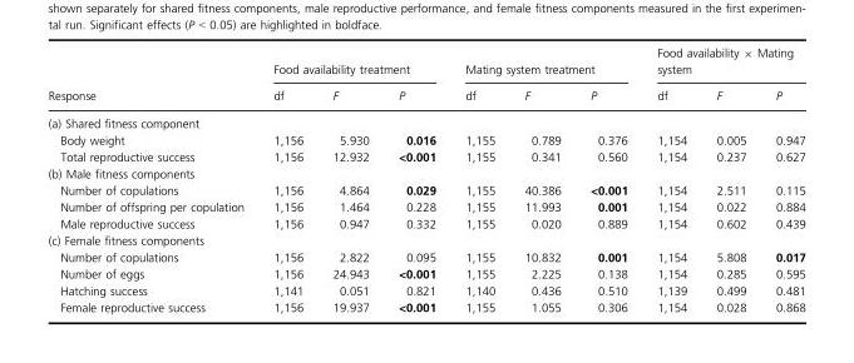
<table><thead><tr><td rowspan="2">Response</td><td colspan="3">Food availability treatment</td><td colspan="3">Mating system treatment</td><td colspan="3">Food availability × Mating system</td></tr><tr><td>df</td><td>F</td><td>P</td><td>df</td><td>F</td><td>P</td><td>df</td><td>F</td><td>P</td></tr></thead><tbody><tr><td colspan="10">(a) Shared fitness component</td></tr><tr><td>Body weight</td><td>1,156</td><td>5.930</td><td>0.016</td><td>1,155</td><td>0.789</td><td>0.376</td><td>1,154</td><td>0.005</td><td>0.947</td></tr><tr><td>Total reproductive success</td><td>1,156</td><td>12.932</td><td>&lt;0.001</td><td>1,155</td><td>0.341</td><td>0.560</td><td>1,154</td><td>0.237</td><td>0.627</td></tr><tr><td colspan="10">(b) Male fitness components</td></tr><tr><td>Number of copulations</td><td>1,156</td><td>4.864</td><td>0.029</td><td>1,155</td><td>40.386</td><td>&lt;0.001</td><td>1,154</td><td>2.511</td><td>0.115</td></tr><tr><td>Number of offspring per copulation</td><td>1,156</td><td>1.464</td><td>0.228</td><td>1,155</td><td>11.993</td><td>0.001</td><td>1,154</td><td>0.022</td><td>0.884</td></tr><tr><td>Male reproductive success</td><td>1,156</td><td>0.947</td><td>0.332</td><td>1,155</td><td>0.020</td><td>0.889</td><td>1,154</td><td>0.602</td><td>0.439</td></tr><tr><td colspan="10">(c) Female fitness components</td></tr><tr><td>Number of copulations</td><td>1,156</td><td>2.822</td><td>0.095</td><td>1,155</td><td>10.832</td><td>0.001</td><td>1,154</td><td>5.808</td><td>0.017</td></tr><tr><td>Number of eggs</td><td>1,156</td><td>24.943</td><td>&lt;0.001</td><td>1,155</td><td>2.225</td><td>0.138</td><td>1,154</td><td>0.285</td><td>0.595</td></tr><tr><td>Hatching success</td><td>1,141</td><td>0.051</td><td>0.821</td><td>1,140</td><td>0.436</td><td>0.510</td><td>1,139</td><td>0.499</td><td>0.481</td></tr><tr><td>Female reproductive success</td><td>1,156</td><td>19.937</td><td>&lt;0.001</td><td>1,155</td><td>1.055</td><td>0.306</td><td>1,154</td><td>0.028</td><td>0.868</td></tr></tbody></table>